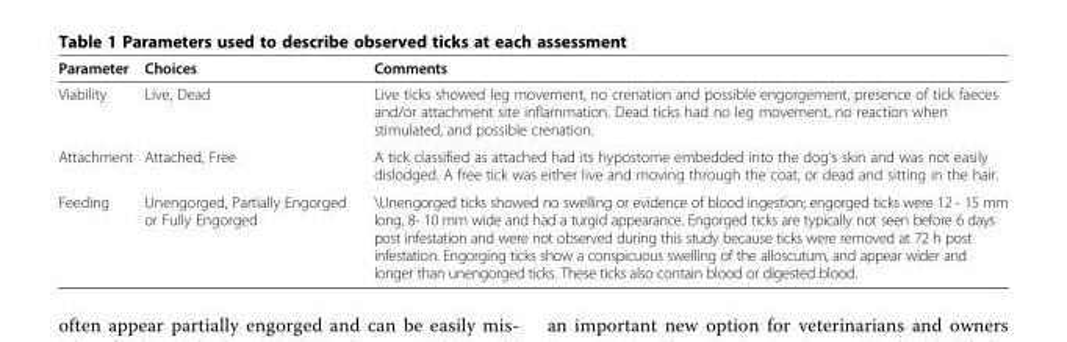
<table><thead><tr><td>Parameter</td><td>Choices</td><td>Comments</td></tr></thead><tbody><tr><td>Viability</td><td>Live, Dead</td><td>Live ticks showed leg movement, no crenation and possible engorgement, presence of tick faeces and/or attachment site inflammation. Dead ticks had no leg movement, no reaction when stimulated, and possible crenation.</td></tr><tr><td>Attachment</td><td>Attached, Free</td><td>A tick classified as attached had its hypostome embedded into the dog’s skin and was not easily dislodged. A free tick was either live and moving through the coat, or dead and sitting in the hair.</td></tr><tr><td>Feeding</td><td>Unengorged, Partially Engorged or Fully Engorged</td><td>�nengorged ticks showed no swelling or evidence of blood ingestion; engorged ticks were 12 - 15 mm long, 8- 10 mm wide and had a turgid appearance. Engorged ticks are typically not seen before 6 days post infestation and were not observed during this study because ticks were removed at 72 h post infestation. Engorging ticks show a conspicuous swelling of the alloscutum, and appear wider and longer than unengorged ticks. These ticks also contain blood or digested blood.</td></tr></tbody></table>